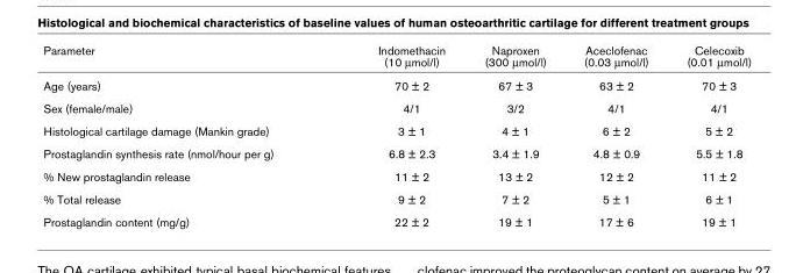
<table><thead><tr><td>Parameter</td><td>Indomethacin (10 µmol/l)</td><td>Naproxen (300 µmol/l)</td><td>Aceclofenac (0.03 µmol/l)</td><td>Celecoxib (0.01 µmol/l)</td></tr></thead><tbody><tr><td>Age (years)</td><td>70 ± 2</td><td>67 ± 3</td><td>63 ± 2</td><td>70 ± 3</td></tr><tr><td>Sex (female/male)</td><td>4/1</td><td>3/2</td><td>4/1</td><td>4/1</td></tr><tr><td>Histological cartilage damage (Mankin grade)</td><td>3 ± 1</td><td>4 ± 1</td><td>6 ± 2</td><td>5 ± 2</td></tr><tr><td>Prostaglandin synthesis rate (nmol/hour per g)</td><td>6.8 ± 2.3</td><td>3.4 ± 1.9</td><td>4.8 ± 0.9</td><td>5.5 ± 1.8</td></tr><tr><td>% New prostaglandin release</td><td>11 ± 2</td><td>13 ± 2</td><td>12 ± 2</td><td>11 ± 2</td></tr><tr><td>% Total release</td><td>9 ± 2</td><td>7 ± 2</td><td>5 ± 1</td><td>6 ± 1</td></tr><tr><td>Prostaglandin content (mg/g)</td><td>22 ± 2</td><td>19 ± 1</td><td>17 ± 6</td><td>19 ± 1</td></tr></tbody></table>